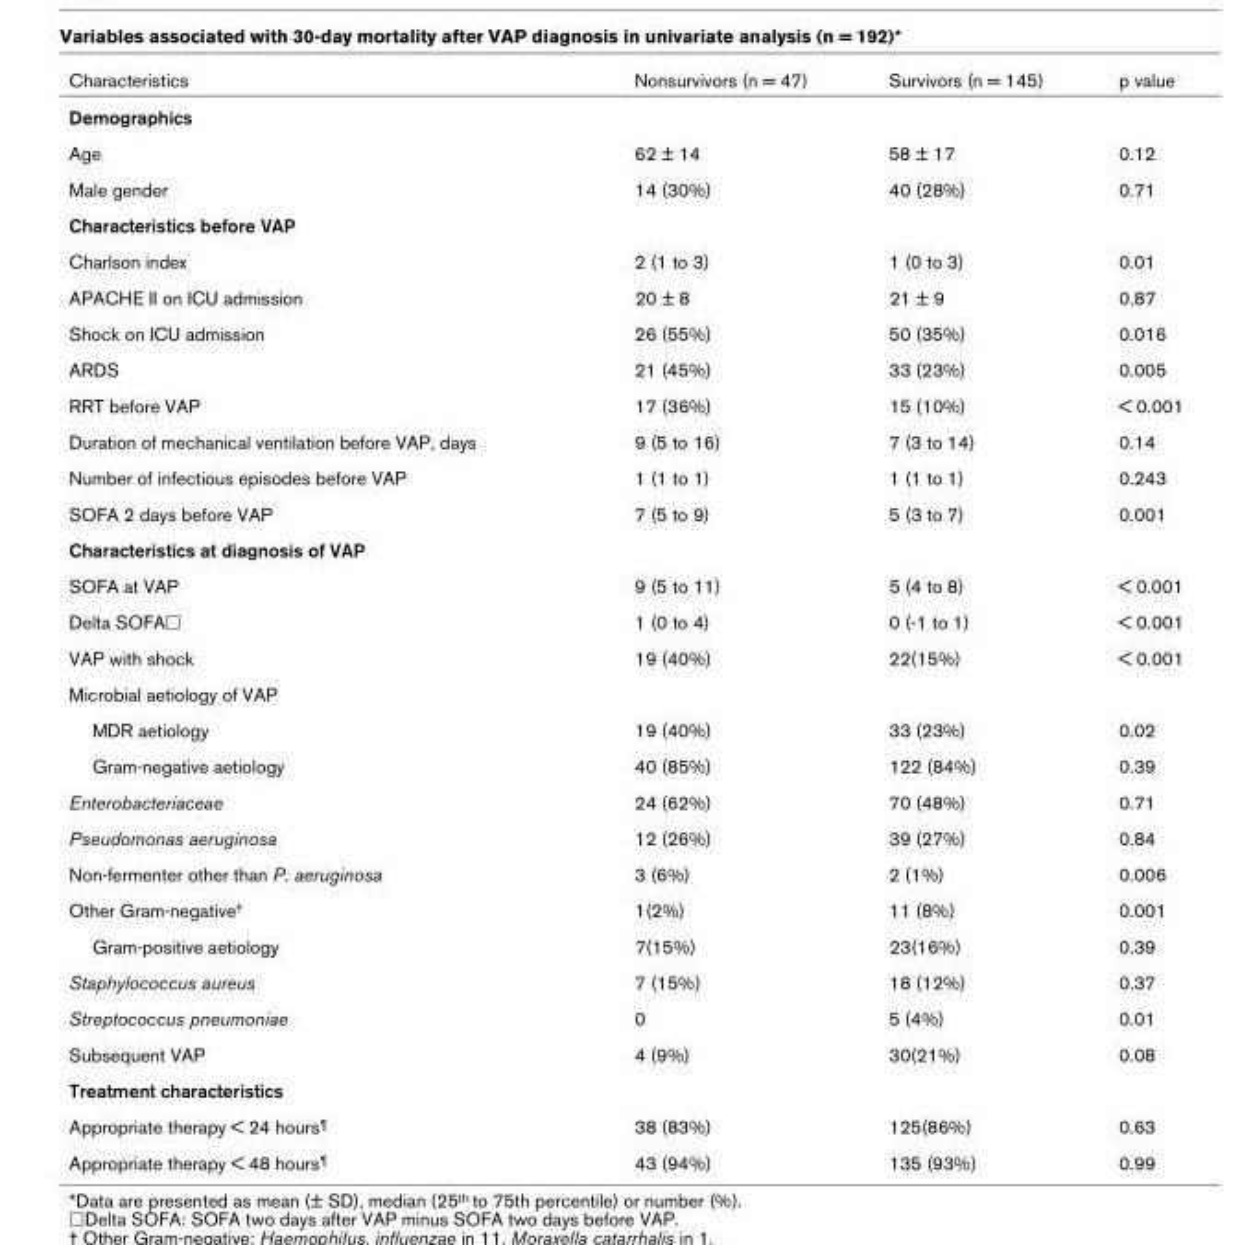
<table><thead><tr><td>Characteristics</td><td>Nonsurvivors (n = 47)</td><td>Survivors (n = 145)</td><td>p value</td></tr></thead><tbody><tr><td colspan="4">Demographics</td></tr><tr><td>Age</td><td>62 ± 14</td><td>58 ± 17</td><td>0.12</td></tr><tr><td>Male gender</td><td>14 (30%)</td><td>40 (28%)</td><td>0.71</td></tr><tr><td colspan="4">Characteristics before VAP</td></tr><tr><td>Charlson index</td><td>2 (1 to 3)</td><td>1 (0 to 3)</td><td>0.01</td></tr><tr><td>APACHE II on ICU admission</td><td>20 ± 8</td><td>21 ± 9</td><td>0.87</td></tr><tr><td>Shock on ICU admission</td><td>26 (55%)</td><td>50 (35%)</td><td>0.016</td></tr><tr><td>ARDS</td><td>21 (45%)</td><td>33 (23%)</td><td>0.005</td></tr><tr><td>RRT before VAP</td><td>17 (36%)</td><td>15 (10%)</td><td>&lt; 0.001</td></tr><tr><td>Duration of mechanical ventilation before VAP, days</td><td>9 (5 to 16)</td><td>7 (3 to 14)</td><td>0.14</td></tr><tr><td>Number of infectious episodes before VAP</td><td>1 (1 to 1)</td><td>1 (1 to 1)</td><td>0.243</td></tr><tr><td>SOFA 2 days before VAP</td><td>7 (5 to 9)</td><td>5 (3 to 7)</td><td>0.001</td></tr><tr><td colspan="4">Characteristics at diagnosis of VAP</td></tr><tr><td>SOFA at VAP</td><td>9 (5 to 11)</td><td>5 (4 to 8)</td><td>&lt; 0.001</td></tr><tr><td>Delta SOFA<sup>□</sup></td><td>1 (0 to 4)</td><td>0 (-1 to 1)</td><td>&lt; 0.001</td></tr><tr><td>VAP with shock</td><td>19 (40%)</td><td>22(15%)</td><td>&lt; 0.001</td></tr><tr><td colspan="4">Microbial aetiology of VAP</td></tr><tr><td>MDR aetiology</td><td>19 (40%)</td><td>33 (23%)</td><td>0.02</td></tr><tr><td>Gram-negative aetiology</td><td>40 (85%)</td><td>122 (84%)</td><td>0.39</td></tr><tr><td>Enterobacteriaceae</td><td>24 (62%)</td><td>70 (48%)</td><td>0.71</td></tr><tr><td>Pseudomonas aeruginosa</td><td>12 (26%)</td><td>39 (27%)</td><td>0.84</td></tr><tr><td>Non-fermenter other than P. aeruginosa</td><td>3 (6%)</td><td>2 (1%)</td><td>0.006</td></tr><tr><td>Other Gram-negative<sup>†</sup></td><td>1(2%)</td><td>11 (8%)</td><td>0.001</td></tr><tr><td>Gram-positive aetiology</td><td>7(15%)</td><td>23(16%)</td><td>0.39</td></tr><tr><td>Staphylococcus aureus</td><td>7 (15%)</td><td>18 (12%)</td><td>0.37</td></tr><tr><td>Streptococcus pneumoniae</td><td>0</td><td>5 (4%)</td><td>0.01</td></tr><tr><td>Subsequent VAP</td><td>4 (9%)</td><td>30(21%)</td><td>0.08</td></tr><tr><td colspan="4">Treatment characteristics</td></tr><tr><td>Appropriate therapy &lt; 24 hours<sup>¶</sup></td><td>38 (83%)</td><td>125(86%)</td><td>0.63</td></tr><tr><td>Appropriate therapy &lt; 48 hours<sup>¶</sup></td><td>43 (94%)</td><td>135 (93%)</td><td>0.99</td></tr></tbody></table>